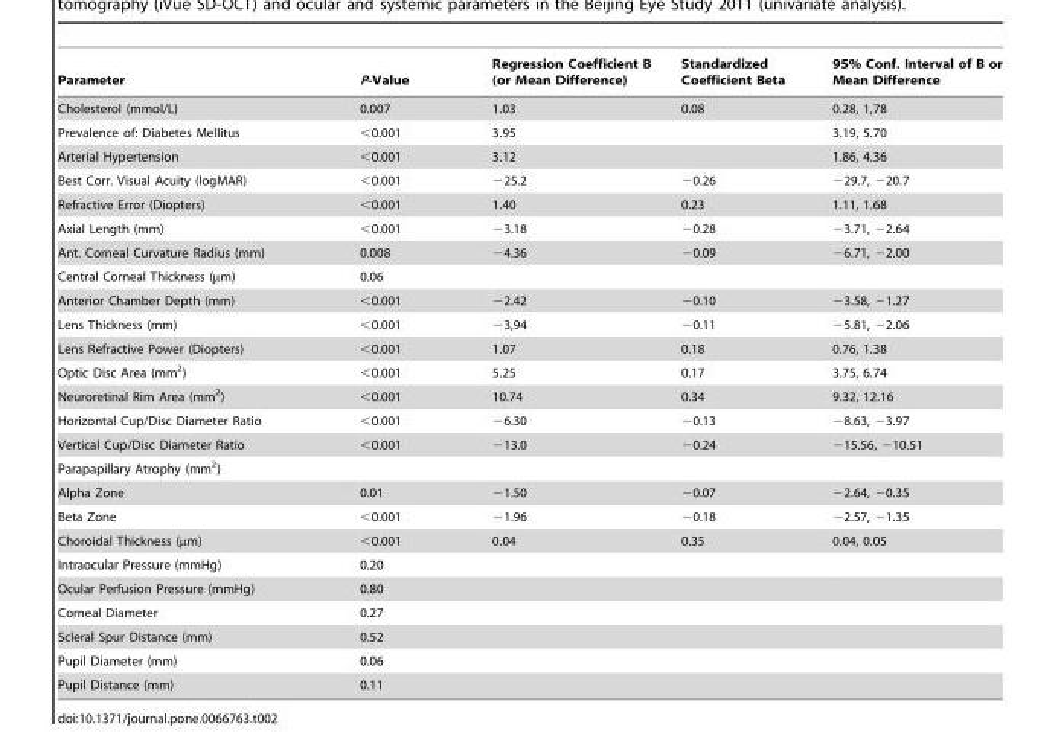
<table><thead><tr><td>Parameter</td><td>P-Value</td><td>Regression Coefficient B (or Mean Difference)</td><td>Standardized Coefficient Beta</td><td>95% Conf. Interval of B or Mean Difference</td></tr></thead><tbody><tr><td>Cholesterol (mmol/L)</td><td>0.007</td><td>1.03</td><td>0.08</td><td>0.28, 1,78</td></tr><tr><td>Prevalence of: Diabetes Mellitus</td><td>&lt;0.001</td><td>3.95</td><td></td><td>3.19, 5.70</td></tr><tr><td>Arterial Hypertension</td><td>&lt;0.001</td><td>3.12</td><td></td><td>1.86, 4.36</td></tr><tr><td>Best Corr. Visual Acuity (logMAR)</td><td>&lt;0.001</td><td>−25.2</td><td>−0.26</td><td>−29.7, −20.7</td></tr><tr><td>Refractive Error (Diopters)</td><td>&lt;0.001</td><td>1.40</td><td>0.23</td><td>1.11, 1.68</td></tr><tr><td>Axial Length (mm)</td><td>&lt;0.001</td><td>−3.18</td><td>−0.28</td><td>−3.71, −2.64</td></tr><tr><td>Ant. Corneal Curvature Radius (mm)</td><td>0.008</td><td>−4.36</td><td>−0.09</td><td>−6.71, −2.00</td></tr><tr><td>Central Corneal Thickness (µm)</td><td>0.06</td><td></td><td></td><td></td></tr><tr><td>Anterior Chamber Depth (mm)</td><td>&lt;0.001</td><td>−2.42</td><td>−0.10</td><td>−3.58, −1.27</td></tr><tr><td>Lens Thickness (mm)</td><td>&lt;0.001</td><td>−3,94</td><td>−0.11</td><td>−5.81, −2.06</td></tr><tr><td>Lens Refractive Power (Diopters)</td><td>&lt;0.001</td><td>1.07</td><td>0.18</td><td>0.76, 1.38</td></tr><tr><td>Optic Disc Area (mm<sup>2</sup>)</td><td>&lt;0.001</td><td>5.25</td><td>0.17</td><td>3.75, 6.74</td></tr><tr><td>Neuroretinal Rim Area (mm<sup>2</sup>)</td><td>&lt;0.001</td><td>10.74</td><td>0.34</td><td>9.32, 12.16</td></tr><tr><td>Horizontal Cup/Disc Diameter Ratio</td><td>&lt;0.001</td><td>−6.30</td><td>−0.13</td><td>−8.63, −3.97</td></tr><tr><td>Vertical Cup/Disc Diameter Ratio</td><td>&lt;0.001</td><td>−13.0</td><td>−0.24</td><td>−15.56, −10.51</td></tr><tr><td colspan="5">Parapapillary Atrophy (mm<sup>2</sup>)</td></tr><tr><td>Alpha Zone</td><td>0.01</td><td>−1.50</td><td>−0.07</td><td>−2.64, −0.35</td></tr><tr><td>Beta Zone</td><td>&lt;0.001</td><td>−1.96</td><td>−0.18</td><td>−2.57, −1.35</td></tr><tr><td>Choroidal Thickness (µm)</td><td>&lt;0.001</td><td>0.04</td><td>0.35</td><td>0.04, 0.05</td></tr><tr><td>Intraocular Pressure (mmHg)</td><td>0.20</td><td></td><td></td><td></td></tr><tr><td>Ocular Perfusion Pressure (mmHg)</td><td>0.80</td><td></td><td></td><td></td></tr><tr><td>Corneal Diameter</td><td>0.27</td><td></td><td></td><td></td></tr><tr><td>Scleral Spur Distance (mm)</td><td>0.52</td><td></td><td></td><td></td></tr><tr><td>Pupil Diameter (mm)</td><td>0.06</td><td></td><td></td><td></td></tr><tr><td>Pupil Distance (mm)</td><td>0.11</td><td></td><td></td><td></td></tr></tbody></table>